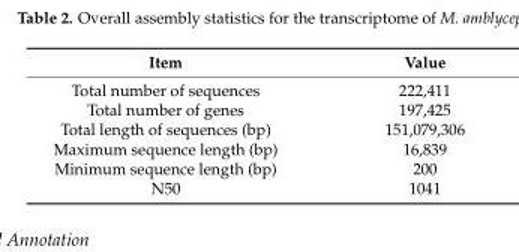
<table><thead><tr><td>Item</td><td>Value</td></tr></thead><tbody><tr><td>Total number of sequences</td><td>222,411</td></tr><tr><td>Total number of genes</td><td>197,425</td></tr><tr><td>Total length of sequences (bp)</td><td>151,079,306</td></tr><tr><td>Maximum sequence length (bp)</td><td>16,839</td></tr><tr><td>Minimum sequence length (bp)</td><td>200</td></tr><tr><td>N50</td><td>1041</td></tr></tbody></table>